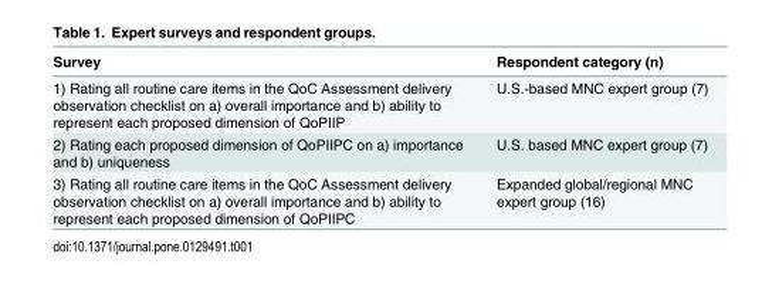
<table><thead><tr><td>Survey</td><td>Respondent category (n)</td></tr></thead><tbody><tr><td>1) Rating all routine care items in the QoC Assessment delivery observation checklist on a) overall importance and b) ability to represent each proposed dimension of QoPIIP</td><td>U.S.-based MNC expert group (7)</td></tr><tr><td>2) Rating each proposed dimension of QoPIIPC on a) importance and b) uniqueness</td><td>U.S. based MNC expert group (7)</td></tr><tr><td>3) Rating all routine care items in the QoC Assessment delivery observation checklist on a) overall importance and b) ability to represent each proposed dimension of QoPIIPC</td><td>Expanded global/regional MNC expert group (16)</td></tr></tbody></table>